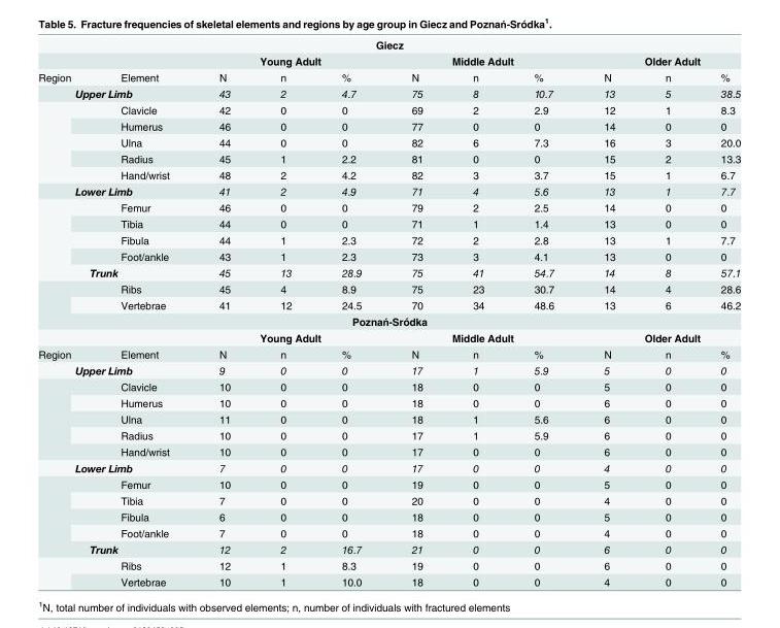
<table><tbody><tr><td colspan="11">Giecz</td></tr><tr><td></td><td></td><td colspan="3">Young Adult</td><td colspan="3">Middle Adult</td><td colspan="3">Older Adult</td></tr><tr><td>Region</td><td>Element</td><td>N</td><td>n</td><td>%</td><td>N</td><td>n</td><td>%</td><td>N</td><td>n</td><td>%</td></tr><tr><td colspan="2">Upper Limb</td><td>43</td><td>2</td><td>4.7</td><td>75</td><td>8</td><td>10.7</td><td>13</td><td>5</td><td>38.5</td></tr><tr><td rowspan="5"></td><td>Clavicle</td><td>42</td><td>0</td><td>0</td><td>69</td><td>2</td><td>2.9</td><td>12</td><td>1</td><td>8.3</td></tr><tr><td>Humerus</td><td>46</td><td>0</td><td>0</td><td>77</td><td>0</td><td>0</td><td>14</td><td>0</td><td>0</td></tr><tr><td>Ulna</td><td>44</td><td>0</td><td>0</td><td>82</td><td>6</td><td>7.3</td><td>16</td><td>3</td><td>20.0</td></tr><tr><td>Radius</td><td>45</td><td>1</td><td>2.2</td><td>81</td><td>0</td><td>0</td><td>15</td><td>2</td><td>13.3</td></tr><tr><td>Hand/wrist</td><td>48</td><td>2</td><td>4.2</td><td>82</td><td>3</td><td>3.7</td><td>15</td><td>1</td><td>6.7</td></tr><tr><td colspan="2">Lower Limb</td><td>41</td><td>2</td><td>4.9</td><td>71</td><td>4</td><td>5.6</td><td>13</td><td>1</td><td>7.7</td></tr><tr><td rowspan="4"></td><td>Femur</td><td>46</td><td>0</td><td>0</td><td>79</td><td>2</td><td>2.5</td><td>14</td><td>0</td><td>0</td></tr><tr><td>Tibia</td><td>44</td><td>0</td><td>0</td><td>71</td><td>1</td><td>1.4</td><td>13</td><td>0</td><td>0</td></tr><tr><td>Fibula</td><td>44</td><td>1</td><td>2.3</td><td>72</td><td>2</td><td>2.8</td><td>13</td><td>1</td><td>7.7</td></tr><tr><td>Foot/ankle</td><td>43</td><td>1</td><td>2.3</td><td>73</td><td>3</td><td>4.1</td><td>13</td><td>0</td><td>0</td></tr><tr><td colspan="2">Trunk</td><td>45</td><td>13</td><td>28.9</td><td>75</td><td>41</td><td>54.7</td><td>14</td><td>8</td><td>57.1</td></tr><tr><td rowspan="2"></td><td>Ribs</td><td>45</td><td>4</td><td>8.9</td><td>75</td><td>23</td><td>30.7</td><td>14</td><td>4</td><td>28.6</td></tr><tr><td>Vertebrae</td><td>41</td><td>12</td><td>24.5</td><td>70</td><td>34</td><td>48.6</td><td>13</td><td>6</td><td>46.2</td></tr><tr><td colspan="11">Poznań-Sródka</td></tr><tr><td></td><td></td><td colspan="3">Young Adult</td><td colspan="3">Middle Adult</td><td colspan="3">Older Adult</td></tr><tr><td>Region</td><td>Element</td><td>N</td><td>n</td><td>%</td><td>N</td><td>n</td><td>%</td><td>N</td><td>n</td><td>%</td></tr><tr><td colspan="2">Upper Limb</td><td>9</td><td>0</td><td>0</td><td>17</td><td>1</td><td>5.9</td><td>5</td><td>0</td><td>0</td></tr><tr><td rowspan="5"></td><td>Clavicle</td><td>10</td><td>0</td><td>0</td><td>18</td><td>0</td><td>0</td><td>5</td><td>0</td><td>0</td></tr><tr><td>Humerus</td><td>10</td><td>0</td><td>0</td><td>18</td><td>0</td><td>0</td><td>6</td><td>0</td><td>0</td></tr><tr><td>Ulna</td><td>11</td><td>0</td><td>0</td><td>18</td><td>1</td><td>5.6</td><td>6</td><td>0</td><td>0</td></tr><tr><td>Radius</td><td>10</td><td>0</td><td>0</td><td>17</td><td>1</td><td>5.9</td><td>6</td><td>0</td><td>0</td></tr><tr><td>Hand/wrist</td><td>10</td><td>0</td><td>0</td><td>17</td><td>0</td><td>0</td><td>6</td><td>0</td><td>0</td></tr><tr><td colspan="2">Lower Limb</td><td>7</td><td>0</td><td>0</td><td>17</td><td>0</td><td>0</td><td>4</td><td>0</td><td>0</td></tr><tr><td rowspan="4"></td><td>Femur</td><td>10</td><td>0</td><td>0</td><td>19</td><td>0</td><td>0</td><td>5</td><td>0</td><td>0</td></tr><tr><td>Tibia</td><td>7</td><td>0</td><td>0</td><td>20</td><td>0</td><td>0</td><td>4</td><td>0</td><td>0</td></tr><tr><td>Fibula</td><td>6</td><td>0</td><td>0</td><td>18</td><td>0</td><td>0</td><td>5</td><td>0</td><td>0</td></tr><tr><td>Foot/ankle</td><td>7</td><td>0</td><td>0</td><td>18</td><td>0</td><td>0</td><td>4</td><td>0</td><td>0</td></tr><tr><td colspan="2">Trunk</td><td>12</td><td>2</td><td>16.7</td><td>21</td><td>0</td><td>0</td><td>6</td><td>0</td><td>0</td></tr><tr><td rowspan="2"></td><td>Ribs</td><td>12</td><td>1</td><td>8.3</td><td>19</td><td>0</td><td>0</td><td>6</td><td>0</td><td>0</td></tr><tr><td>Vertebrae</td><td>10</td><td>1</td><td>10.0</td><td>18</td><td>0</td><td>0</td><td>4</td><td>0</td><td>0</td></tr></tbody></table>